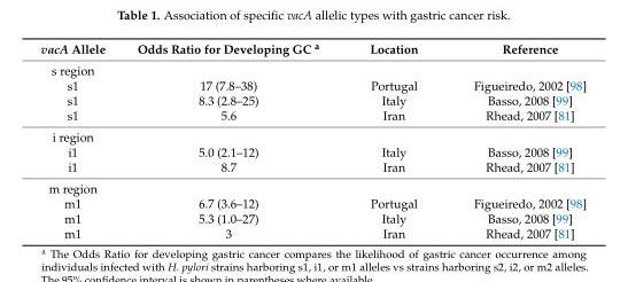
<table><thead><tr><td>vacA Allele</td><td>Odds Ratio for Developing GC <sup>a</sup></td><td>Location</td><td>Reference</td></tr></thead><tbody><tr><td colspan="4">s region</td></tr><tr><td>s1</td><td>17 (7.8–38)</td><td>Portugal</td><td>Figueiredo, 2002 [98]</td></tr><tr><td>s1</td><td>8.3 (2.8–25)</td><td>Italy</td><td>Basso, 2008 [99]</td></tr><tr><td>s1</td><td>5.6</td><td>Iran</td><td>Rhead, 2007 [81]</td></tr><tr><td colspan="4">i region</td></tr><tr><td>i1</td><td>5.0 (2.1–12)</td><td>Italy</td><td>Basso, 2008 [99]</td></tr><tr><td>i1</td><td>8.7</td><td>Iran</td><td>Rhead, 2007 [81]</td></tr><tr><td colspan="4">m region</td></tr><tr><td>m1</td><td>6.7 (3.6–12)</td><td>Portugal</td><td>Figueiredo, 2002 [98]</td></tr><tr><td>m1</td><td>5.3 (1.0–27)</td><td>Italy</td><td>Basso, 2008 [99]</td></tr><tr><td>m1</td><td>3</td><td>Iran</td><td>Rhead, 2007 [81]</td></tr></tbody></table>